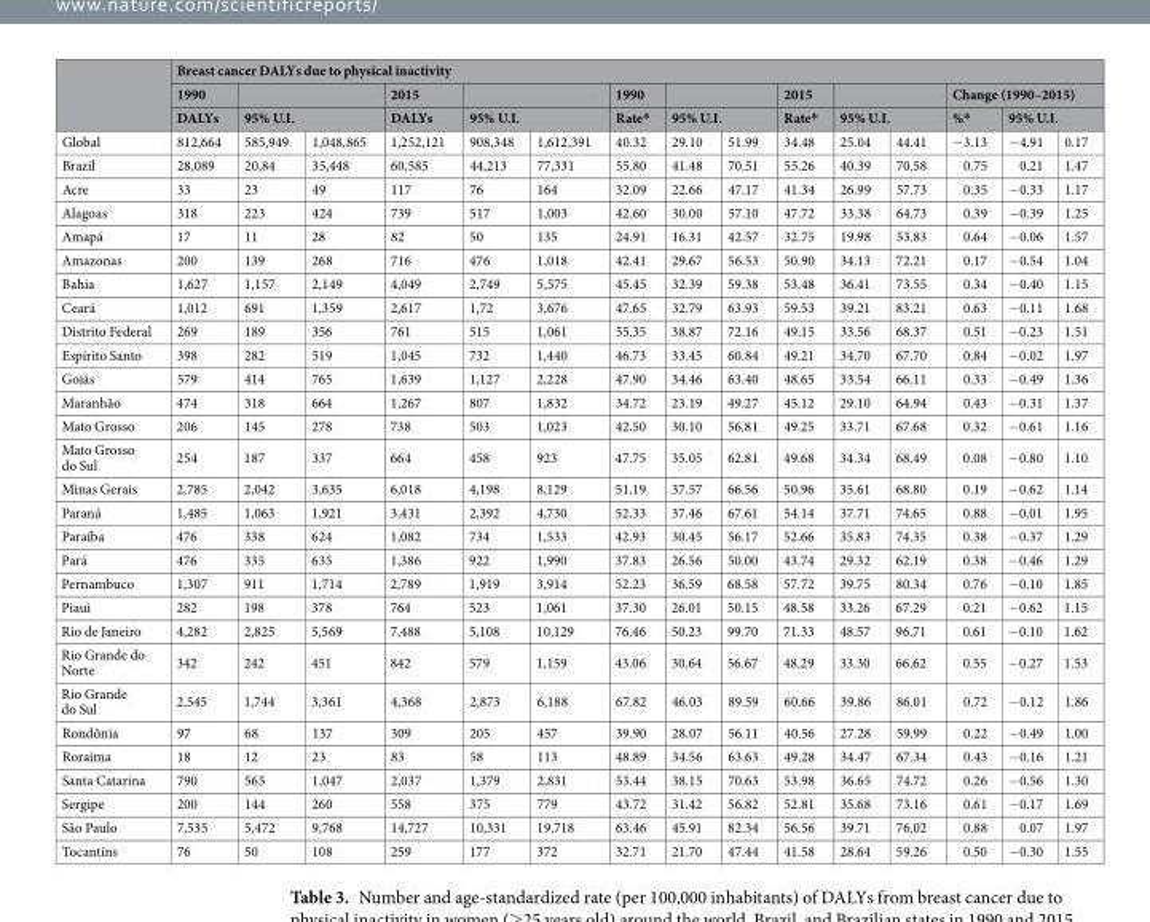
<table><thead><tr><td rowspan="4">Global</td><td colspan="15">Breast cancer DALYs due to physical inactivity</td></tr><tr><td rowspan="3">1990 DALYs 812,664</td><td></td><td></td><td rowspan="3">2015 DALYs 1,252,121</td><td></td><td></td><td rowspan="3">1990 Rate* 40.32</td><td></td><td></td><td rowspan="3">2015 Rate* 34.48</td><td></td><td></td><td colspan="3">Change (1990–2015)</td></tr><tr><td colspan="2">95% U.I.</td><td colspan="2">95% U.I.</td><td colspan="2">95% U.I.</td><td colspan="2">95% U.I.</td><td rowspan="2">%* −3.13</td><td colspan="2">95% U.I.</td></tr><tr><td>585,949</td><td>1,048,865</td><td>908,348</td><td>1,612,391</td><td>29.10</td><td>51.99</td><td>25.04</td><td>44.41</td><td>−4.91</td><td>0.17</td></tr></thead><tbody><tr><td>Brazil</td><td>28,089</td><td>20,84</td><td>35,448</td><td>60,585</td><td>44,213</td><td>77,331</td><td>55.80</td><td>41.48</td><td>70.51</td><td>55.26</td><td>40.39</td><td>70.58</td><td>0.75</td><td>0.21</td><td>1.47</td></tr><tr><td>Acre</td><td>33</td><td>23</td><td>49</td><td>117</td><td>76</td><td>164</td><td>32.09</td><td>22.66</td><td>47.17</td><td>41.34</td><td>26.99</td><td>57.73</td><td>0.35</td><td>−0.33</td><td>1.17</td></tr><tr><td>Alagoas</td><td>318</td><td>223</td><td>424</td><td>739</td><td>517</td><td>1,003</td><td>42.60</td><td>30.00</td><td>57.10</td><td>47.72</td><td>33.38</td><td>64.73</td><td>0.39</td><td>−0.39</td><td>1.25</td></tr><tr><td>Amapá</td><td>17</td><td>11</td><td>28</td><td>82</td><td>50</td><td>135</td><td>24.91</td><td>16.31</td><td>42.57</td><td>32.75</td><td>19.98</td><td>53.83</td><td>0.64</td><td>−0.06</td><td>1.57</td></tr><tr><td>Amazonas</td><td>200</td><td>139</td><td>268</td><td>716</td><td>476</td><td>1,018</td><td>42.41</td><td>29.67</td><td>56.53</td><td>50.90</td><td>34.13</td><td>72.21</td><td>0.17</td><td>−0.54</td><td>1.04</td></tr><tr><td>Bahia</td><td>1,627</td><td>1,157</td><td>2,149</td><td>4,049</td><td>2,749</td><td>5,575</td><td>45.45</td><td>32.39</td><td>59.38</td><td>53.48</td><td>36.41</td><td>73.55</td><td>0.34</td><td>−0.40</td><td>1.15</td></tr><tr><td>Ceará</td><td>1,012</td><td>691</td><td>1,359</td><td>2,617</td><td>1,72</td><td>3,676</td><td>47.65</td><td>32.79</td><td>63.93</td><td>59.53</td><td>39.21</td><td>83.21</td><td>0.63</td><td>−0.11</td><td>1.68</td></tr><tr><td>Distrito Federal</td><td>269</td><td>189</td><td>356</td><td>761</td><td>515</td><td>1,061</td><td>55.35</td><td>38.87</td><td>72.16</td><td>49.15</td><td>33.56</td><td>68.37</td><td>0.51</td><td>−0.23</td><td>1.51</td></tr><tr><td>Espírito Santo</td><td>398</td><td>282</td><td>519</td><td>1,045</td><td>732</td><td>1,440</td><td>46.73</td><td>33.45</td><td>60.84</td><td>49.21</td><td>34.70</td><td>67.70</td><td>0.84</td><td>−0.02</td><td>1.97</td></tr><tr><td>Goiás</td><td>579</td><td>414</td><td>765</td><td>1,639</td><td>1,127</td><td>2,228</td><td>47.90</td><td>34.46</td><td>63.40</td><td>48.65</td><td>33.54</td><td>66.11</td><td>0.33</td><td>−0.49</td><td>1.36</td></tr><tr><td>Maranhão</td><td>474</td><td>318</td><td>664</td><td>1,267</td><td>807</td><td>1,832</td><td>34.72</td><td>23.19</td><td>49.27</td><td>45.12</td><td>29.10</td><td>64.94</td><td>0.43</td><td>−0.31</td><td>1.37</td></tr><tr><td>Mato Grosso</td><td>206</td><td>145</td><td>278</td><td>738</td><td>503</td><td>1,023</td><td>42.50</td><td>30.10</td><td>56.81</td><td>49.25</td><td>33.71</td><td>67.68</td><td>0.32</td><td>−0.61</td><td>1.16</td></tr><tr><td>Mato Grosso do Sul</td><td>254</td><td>187</td><td>337</td><td>664</td><td>458</td><td>923</td><td>47.75</td><td>35.05</td><td>62.81</td><td>49.68</td><td>34.34</td><td>68.49</td><td>0.08</td><td>−0.80</td><td>1.10</td></tr><tr><td>Minas Gerais</td><td>2,785</td><td>2,042</td><td>3,635</td><td>6,018</td><td>4,198</td><td>8,129</td><td>51.19</td><td>37.57</td><td>66.56</td><td>50.96</td><td>35.61</td><td>68.80</td><td>0.19</td><td>−0.62</td><td>1.14</td></tr><tr><td>Paraná</td><td>1,485</td><td>1,063</td><td>1,921</td><td>3,431</td><td>2,392</td><td>4,730</td><td>52.33</td><td>37.46</td><td>67.61</td><td>54.14</td><td>37.71</td><td>74.65</td><td>0.88</td><td>−0.01</td><td>1.95</td></tr><tr><td>Paraíba</td><td>476</td><td>338</td><td>624</td><td>1,082</td><td>734</td><td>1,533</td><td>42.93</td><td>30.45</td><td>56.17</td><td>52.66</td><td>35.83</td><td>74.35</td><td>0.38</td><td>−0.37</td><td>1.29</td></tr><tr><td>Pará</td><td>476</td><td>335</td><td>635</td><td>1,386</td><td>922</td><td>1,990</td><td>37.83</td><td>26.56</td><td>50.00</td><td>43.74</td><td>29.32</td><td>62.19</td><td>0.38</td><td>−0.46</td><td>1.29</td></tr><tr><td>Pernambuco</td><td>1,307</td><td>911</td><td>1,714</td><td>2,789</td><td>1,919</td><td>3,914</td><td>52.23</td><td>36.59</td><td>68.58</td><td>57.72</td><td>39.75</td><td>80.34</td><td>0.76</td><td>−0.10</td><td>1.85</td></tr><tr><td>Piaui</td><td>282</td><td>198</td><td>378</td><td>764</td><td>523</td><td>1,061</td><td>37.30</td><td>26.01</td><td>50.15</td><td>48.58</td><td>33.26</td><td>67.29</td><td>0.21</td><td>−0.62</td><td>1.15</td></tr><tr><td>Rio de Janeiro</td><td>4,282</td><td>2,825</td><td>5,569</td><td>7,488</td><td>5,108</td><td>10,129</td><td>76.46</td><td>50.23</td><td>99.70</td><td>71.33</td><td>48.57</td><td>96.71</td><td>0.61</td><td>−0.10</td><td>1.62</td></tr><tr><td>Rio Grande do Norte</td><td>342</td><td>242</td><td>451</td><td>842</td><td>579</td><td>1,159</td><td>43.06</td><td>30.64</td><td>56.67</td><td>48.29</td><td>33.30</td><td>66.62</td><td>0.55</td><td>−0.27</td><td>1.53</td></tr><tr><td>Rio Grande do Sul</td><td>2,545</td><td>1,744</td><td>3,361</td><td>4,368</td><td>2,873</td><td>6,188</td><td>67.82</td><td>46.03</td><td>89.59</td><td>60.66</td><td>39.86</td><td>86.01</td><td>0.72</td><td>−0.12</td><td>1.86</td></tr><tr><td>Rondônia</td><td>97</td><td>68</td><td>137</td><td>309</td><td>205</td><td>457</td><td>39.90</td><td>28.07</td><td>56.11</td><td>40.56</td><td>27.28</td><td>59.99</td><td>0.22</td><td>−0.49</td><td>1.00</td></tr><tr><td>Roraima</td><td>18</td><td>12</td><td>23</td><td>83</td><td>58</td><td>113</td><td>48.89</td><td>34.56</td><td>63.63</td><td>49.28</td><td>34.47</td><td>67.34</td><td>0.43</td><td>−0.16</td><td>1.21</td></tr><tr><td>Santa Catarina</td><td>790</td><td>565</td><td>1,047</td><td>2,037</td><td>1,379</td><td>2,831</td><td>53.44</td><td>38.15</td><td>70.63</td><td>53.98</td><td>36.65</td><td>74.72</td><td>0.26</td><td>−0.56</td><td>1.30</td></tr><tr><td>Sergipe</td><td>200</td><td>144</td><td>260</td><td>558</td><td>375</td><td>779</td><td>43.72</td><td>31.42</td><td>56.82</td><td>52.81</td><td>35.68</td><td>73.16</td><td>0.61</td><td>−0.17</td><td>1.69</td></tr><tr><td>São Paulo</td><td>7,535</td><td>5,472</td><td>9,768</td><td>14,727</td><td>10,331</td><td>19,718</td><td>63.46</td><td>45.91</td><td>82.34</td><td>56.56</td><td>39.71</td><td>76.02</td><td>0.88</td><td>0.07</td><td>1.97</td></tr><tr><td>Tocantins</td><td>76</td><td>50</td><td>108</td><td>259</td><td>177</td><td>372</td><td>32.71</td><td>21.70</td><td>47.44</td><td>41.58</td><td>28.64</td><td>59.26</td><td>0.50</td><td>−0.30</td><td>1.55</td></tr></tbody></table>